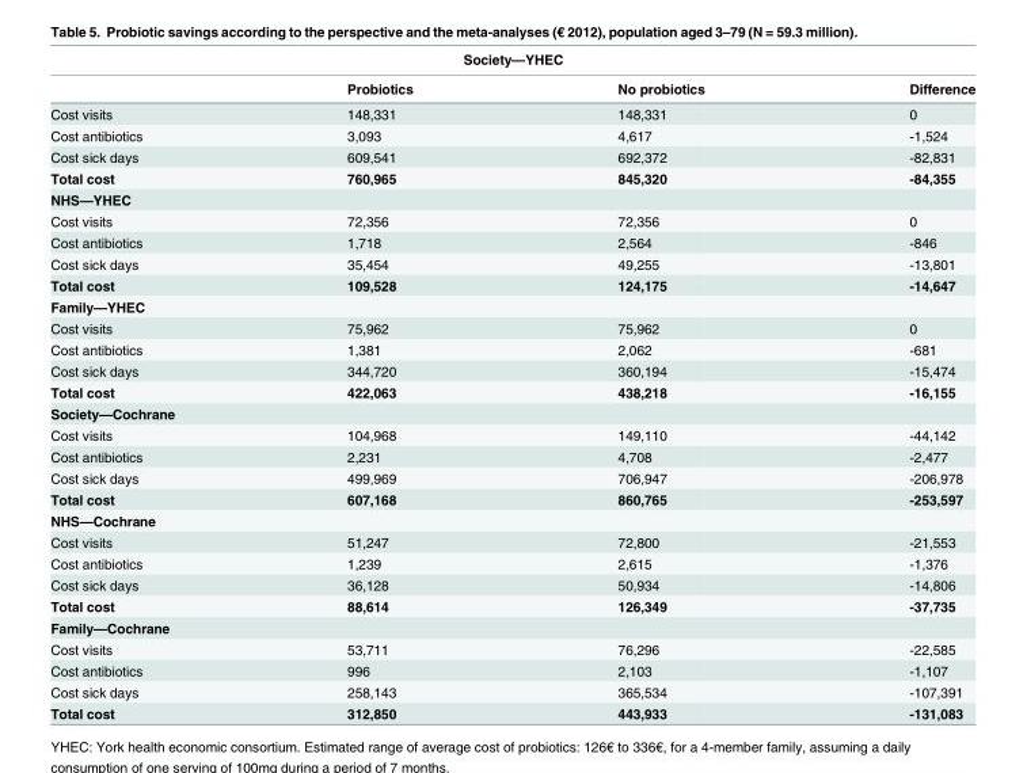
<table><thead><tr><td colspan="4">Society—YHEC</td></tr><tr><td></td><td>Probiotics</td><td>No probiotics</td><td>Difference</td></tr></thead><tbody><tr><td>Cost visits</td><td>148,331</td><td>148,331</td><td>0</td></tr><tr><td>Cost antibiotics</td><td>3,093</td><td>4,617</td><td>-1,524</td></tr><tr><td>Cost sick days</td><td>609,541</td><td>692,372</td><td>-82,831</td></tr><tr><td>Total cost</td><td>760,965</td><td>845,320</td><td>-84,355</td></tr><tr><td colspan="4">NHS—YHEC</td></tr><tr><td>Cost visits</td><td>72,356</td><td>72,356</td><td>0</td></tr><tr><td>Cost antibiotics</td><td>1,718</td><td>2,564</td><td>-846</td></tr><tr><td>Cost sick days</td><td>35,454</td><td>49,255</td><td>-13,801</td></tr><tr><td>Total cost</td><td>109,528</td><td>124,175</td><td>-14,647</td></tr><tr><td colspan="4">Family—YHEC</td></tr><tr><td>Cost visits</td><td>75,962</td><td>75,962</td><td>0</td></tr><tr><td>Cost antibiotics</td><td>1,381</td><td>2,062</td><td>-681</td></tr><tr><td>Cost sick days</td><td>344,720</td><td>360,194</td><td>-15,474</td></tr><tr><td>Total cost</td><td>422,063</td><td>438,218</td><td>-16,155</td></tr><tr><td colspan="4">Society—Cochrane</td></tr><tr><td>Cost visits</td><td>104,968</td><td>149,110</td><td>-44,142</td></tr><tr><td>Cost antibiotics</td><td>2,231</td><td>4,708</td><td>-2,477</td></tr><tr><td>Cost sick days</td><td>499,969</td><td>706,947</td><td>-206,978</td></tr><tr><td>Total cost</td><td>607,168</td><td>860,765</td><td>-253,597</td></tr><tr><td colspan="4">NHS—Cochrane</td></tr><tr><td>Cost visits</td><td>51,247</td><td>72,800</td><td>-21,553</td></tr><tr><td>Cost antibiotics</td><td>1,239</td><td>2,615</td><td>-1,376</td></tr><tr><td>Cost sick days</td><td>36,128</td><td>50,934</td><td>-14,806</td></tr><tr><td>Total cost</td><td>88,614</td><td>126,349</td><td>-37,735</td></tr><tr><td colspan="4">Family—Cochrane</td></tr><tr><td>Cost visits</td><td>53,711</td><td>76,296</td><td>-22,585</td></tr><tr><td>Cost antibiotics</td><td>996</td><td>2,103</td><td>-1,107</td></tr><tr><td>Cost sick days</td><td>258,143</td><td>365,534</td><td>-107,391</td></tr><tr><td>Total cost</td><td>312,850</td><td>443,933</td><td>-131,083</td></tr></tbody></table>